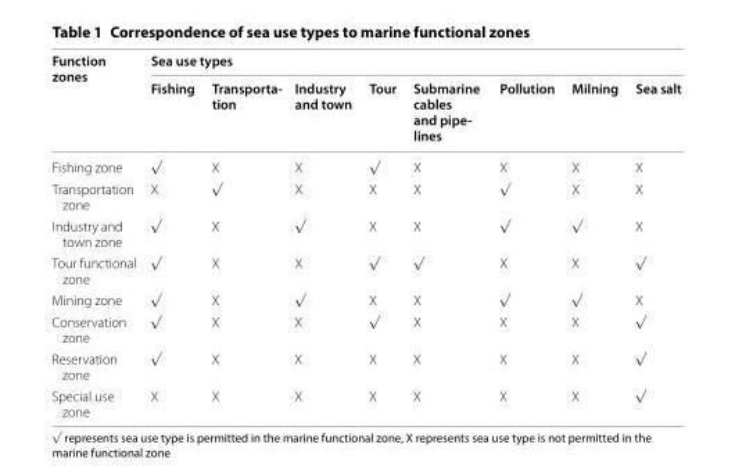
<table><thead><tr><td rowspan="2">Function zones</td><td colspan="8">Sea use types</td></tr><tr><td>Fishing</td><td>Transporta- tion</td><td>Industry and town</td><td>Tour</td><td>Submarine cables and pipe- lines</td><td>Pollution</td><td>Milning</td><td>Sea salt</td></tr></thead><tbody><tr><td>Fishing zone</td><td>√</td><td>X</td><td>X</td><td>√</td><td>X</td><td>X</td><td>X</td><td>X</td></tr><tr><td>Transportation zone</td><td>X</td><td>√</td><td>X</td><td>X</td><td>X</td><td>√</td><td>X</td><td>X</td></tr><tr><td>Industry and town zone</td><td>√</td><td>X</td><td>√</td><td>X</td><td>X</td><td>√</td><td>√</td><td>X</td></tr><tr><td>Tour functional zone</td><td>√</td><td>X</td><td>X</td><td>√</td><td>√</td><td>X</td><td>X</td><td>√</td></tr><tr><td>Mining zone</td><td>√</td><td>X</td><td>√</td><td>X</td><td>X</td><td>√</td><td>√</td><td>X</td></tr><tr><td>Conservation zone</td><td>√</td><td>X</td><td>X</td><td>√</td><td>X</td><td>X</td><td>X</td><td>√</td></tr><tr><td>Reservation zone</td><td>√</td><td>X</td><td>X</td><td>X</td><td>X</td><td>X</td><td>X</td><td>√</td></tr><tr><td>Special use zone</td><td>X</td><td>X</td><td>X</td><td>X</td><td>X</td><td>X</td><td>X</td><td>√</td></tr></tbody></table>